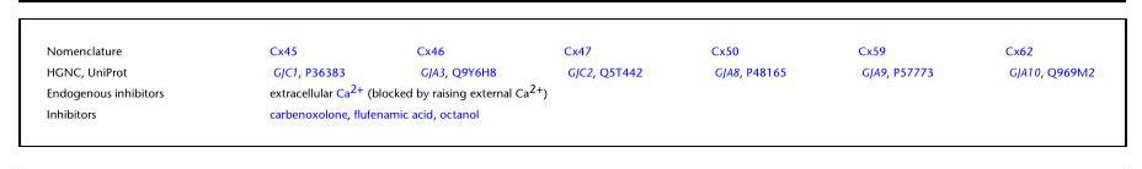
<table><tbody><tr><td>Nomenclature</td><td>Cx45</td><td>Cx46</td><td>Cx47</td><td>Cx50</td><td>Cx59</td><td>Cx62</td></tr><tr><td>HGNC, UniProt</td><td>GJC1, P36383</td><td>GJA3, Q9Y6H8</td><td>GJC2, Q5T442</td><td>GJA8, P48165</td><td>GJA9, P57773</td><td>GJA10, Q969M2</td></tr><tr><td>Endogenous inhibitors</td><td colspan="4">extracellular Ca<sup>2+</sup> (blocked by raising external Ca<sup>2+</sup>)</td><td></td><td></td></tr><tr><td>Inhibitors</td><td colspan="4">carbenoxolone, flufenamic acid, octanol</td><td></td><td></td></tr></tbody></table>